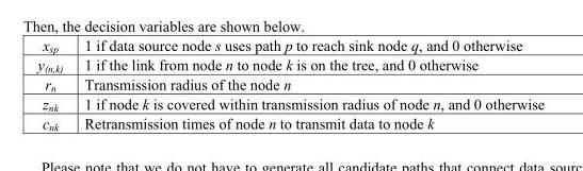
<table><tbody><tr><td>x<sub>sp</sub></td><td>1 if data source node s uses path p to reach sink node q, and 0 otherwise</td></tr><tr><td>y<sub>(n,k)</sub></td><td>1 if the link from node n to node k is on the tree, and 0 otherwise</td></tr><tr><td>r<sub>n</sub></td><td>Transmission radius of the node n</td></tr><tr><td>z<sub>nk</sub></td><td>1 if node k is covered within transmission radius of node n, and 0 otherwise</td></tr><tr><td>c<sub>nk</sub></td><td>Retransmission times of node n to transmit data to node k</td></tr></tbody></table>